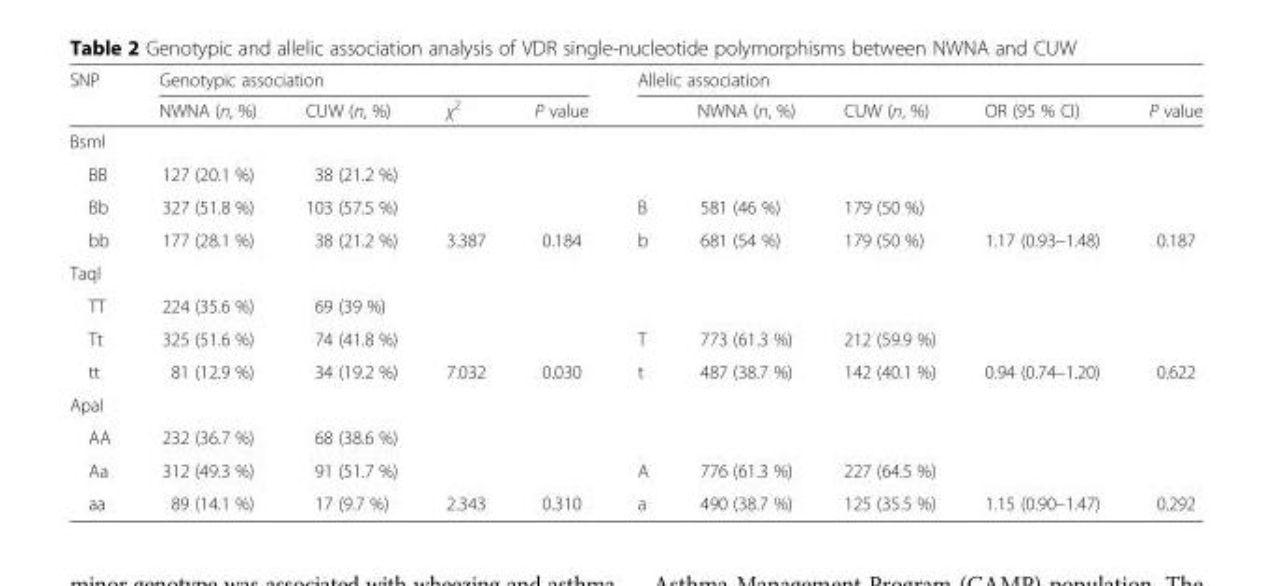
<table><thead><tr><td rowspan="2">SNP</td><td colspan="4">Genotypic association</td><td colspan="5">Allelic association</td></tr><tr><td>NWNA (n, %)</td><td>CUW (n, %)</td><td>χ<sup>2</sup></td><td>P value</td><td></td><td>NWNA (n, %)</td><td>CUW (n, %)</td><td>OR (95 % CI)</td><td>P value</td></tr></thead><tbody><tr><td colspan="10">BsmI</td></tr><tr><td>BB</td><td>127 (20.1 %)</td><td>38 (21.2 %)</td><td></td><td></td><td></td><td></td><td></td><td></td><td></td></tr><tr><td>Bb</td><td>327 (51.8 %)</td><td>103 (57.5 %)</td><td></td><td></td><td>B</td><td>581 (46 %)</td><td>179 (50 %)</td><td></td><td></td></tr><tr><td>bb</td><td>177 (28.1 %)</td><td>38 (21.2 %)</td><td>3.387</td><td>0.184</td><td>b</td><td>681 (54 %)</td><td>179 (50 %)</td><td>1.17 (0.93–1.48)</td><td>0.187</td></tr><tr><td colspan="10">TaqI</td></tr><tr><td>TT</td><td>224 (35.6 %)</td><td>69 (39 %)</td><td></td><td></td><td></td><td></td><td></td><td></td><td></td></tr><tr><td>Tt</td><td>325 (51.6 %)</td><td>74 (41.8 %)</td><td></td><td></td><td>T</td><td>773 (61.3 %)</td><td>212 (59.9 %)</td><td></td><td></td></tr><tr><td>tt</td><td>81 (12.9 %)</td><td>34 (19.2 %)</td><td>7.032</td><td>0.030</td><td>t</td><td>487 (38.7 %)</td><td>142 (40.1 %)</td><td>0.94 (0.74–1.20)</td><td>0.622</td></tr><tr><td colspan="10">ApaI</td></tr><tr><td>AA</td><td>232 (36.7 %)</td><td>68 (38.6 %)</td><td></td><td></td><td></td><td></td><td></td><td></td><td></td></tr><tr><td>Aa</td><td>312 (49.3 %)</td><td>91 (51.7 %)</td><td></td><td></td><td>A</td><td>776 (61.3 %)</td><td>227 (64.5 %)</td><td></td><td></td></tr><tr><td>aa</td><td>89 (14.1 %)</td><td>17 (9.7 %)</td><td>2.343</td><td>0.310</td><td>a</td><td>490 (38.7 %)</td><td>125 (35.5 %)</td><td>1.15 (0.90–1.47)</td><td>0.292</td></tr></tbody></table>